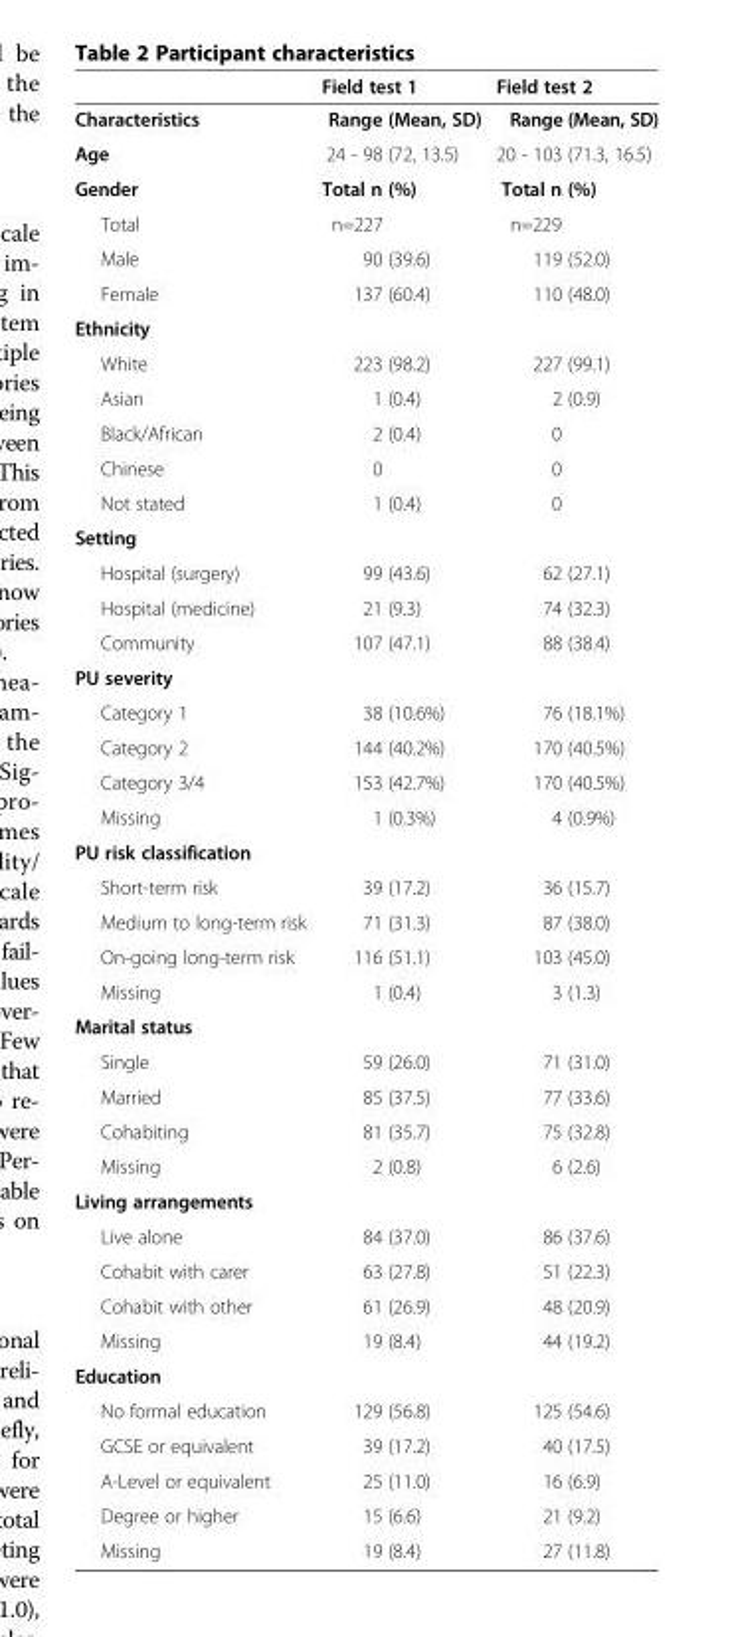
<table><thead><tr><td></td><td>Field test 1</td><td>Field test 2</td></tr></thead><tbody><tr><td>Characteristics</td><td>Range (Mean, SD)</td><td>Range (Mean, SD)</td></tr><tr><td>Age</td><td>24 - 98 (72, 13.5)</td><td>20 - 103 (71.3, 16.5)</td></tr><tr><td>Gender</td><td>Total n (%)</td><td>Total n (%)</td></tr><tr><td>Total</td><td>n=227</td><td>n=229</td></tr><tr><td>Male</td><td>90 (39.6)</td><td>119 (52.0)</td></tr><tr><td>Female</td><td>137 (60.4)</td><td>110 (48.0)</td></tr><tr><td colspan="3">Ethnicity</td></tr><tr><td>White</td><td>223 (98.2)</td><td>227 (99.1)</td></tr><tr><td>Asian</td><td>1 (0.4)</td><td>2 (0.9)</td></tr><tr><td>Black/African</td><td>2 (0.4)</td><td>0</td></tr><tr><td>Chinese</td><td>0</td><td>0</td></tr><tr><td>Not stated</td><td>1 (0.4)</td><td>0</td></tr><tr><td colspan="3">Setting</td></tr><tr><td>Hospital (surgery)</td><td>99 (43.6)</td><td>62 (27.1)</td></tr><tr><td>Hospital (medicine)</td><td>21 (9.3)</td><td>74 (32.3)</td></tr><tr><td>Community</td><td>107 (47.1)</td><td>88 (38.4)</td></tr><tr><td colspan="3">PU severity</td></tr><tr><td>Category 1</td><td>38 (10.6%)</td><td>76 (18.1%)</td></tr><tr><td>Category 2</td><td>144 (40.2%)</td><td>170 (40.5%)</td></tr><tr><td>Category 3/4</td><td>153 (42.7%)</td><td>170 (40.5%)</td></tr><tr><td>Missing</td><td>1 (0.3%)</td><td>4 (0.9%)</td></tr><tr><td colspan="3">PU risk classification</td></tr><tr><td>Short-term risk</td><td>39 (17.2)</td><td>36 (15.7)</td></tr><tr><td>Medium to long-term risk</td><td>71 (31.3)</td><td>87 (38.0)</td></tr><tr><td>On-going long-term risk</td><td>116 (51.1)</td><td>103 (45.0)</td></tr><tr><td>Missing</td><td>1 (0.4)</td><td>3 (1.3)</td></tr><tr><td colspan="3">Marital status</td></tr><tr><td>Single</td><td>59 (26.0)</td><td>71 (31.0)</td></tr><tr><td>Married</td><td>85 (37.5)</td><td>77 (33.6)</td></tr><tr><td>Cohabiting</td><td>81 (35.7)</td><td>75 (32.8)</td></tr><tr><td>Missing</td><td>2 (0.8)</td><td>6 (2.6)</td></tr><tr><td colspan="3">Living arrangements</td></tr><tr><td>Live alone</td><td>84 (37.0)</td><td>86 (37.6)</td></tr><tr><td>Cohabit with carer</td><td>63 (27.8)</td><td>51 (22.3)</td></tr><tr><td>Cohabit with other</td><td>61 (26.9)</td><td>48 (20.9)</td></tr><tr><td>Missing</td><td>19 (8.4)</td><td>44 (19.2)</td></tr><tr><td colspan="3">Education</td></tr><tr><td>No formal education</td><td>129 (56.8)</td><td>125 (54.6)</td></tr><tr><td>GCSE or equivalent</td><td>39 (17.2)</td><td>40 (17.5)</td></tr><tr><td>A-Level or equivalent</td><td>25 (11.0)</td><td>16 (6.9)</td></tr><tr><td>Degree or higher</td><td>15 (6.6)</td><td>21 (9.2)</td></tr><tr><td>Missing</td><td>19 (8.4)</td><td>27 (11.8)</td></tr></tbody></table>